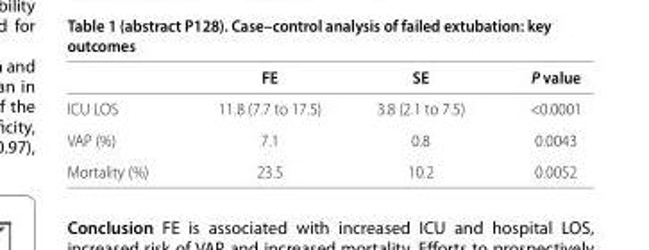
<table><thead><tr><td></td><td>FE</td><td>SE</td><td>P value</td></tr></thead><tbody><tr><td>ICU LOS</td><td>11.8 (7.7 to 17.5)</td><td>3.8 (2.1 to 7.5)</td><td>&lt;0.0001</td></tr><tr><td>VAP (%)</td><td>7.1</td><td>0.8</td><td>0.0043</td></tr><tr><td>Mortality (%)</td><td>23.5</td><td>10.2</td><td>0.0052</td></tr></tbody></table>